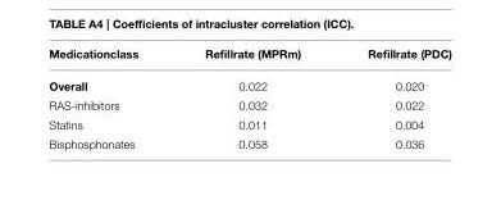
<table><thead><tr><td>Medicationclass</td><td>Refillrate (MPRm)</td><td>Refillrate (PDC)</td></tr></thead><tbody><tr><td>Overall</td><td>0.022</td><td>0.020</td></tr><tr><td>RAS-inhibitors</td><td>0.032</td><td>0.022</td></tr><tr><td>Statins</td><td>0.011</td><td>0.004</td></tr><tr><td>Bisphosphonates</td><td>0.058</td><td>0.036</td></tr></tbody></table>